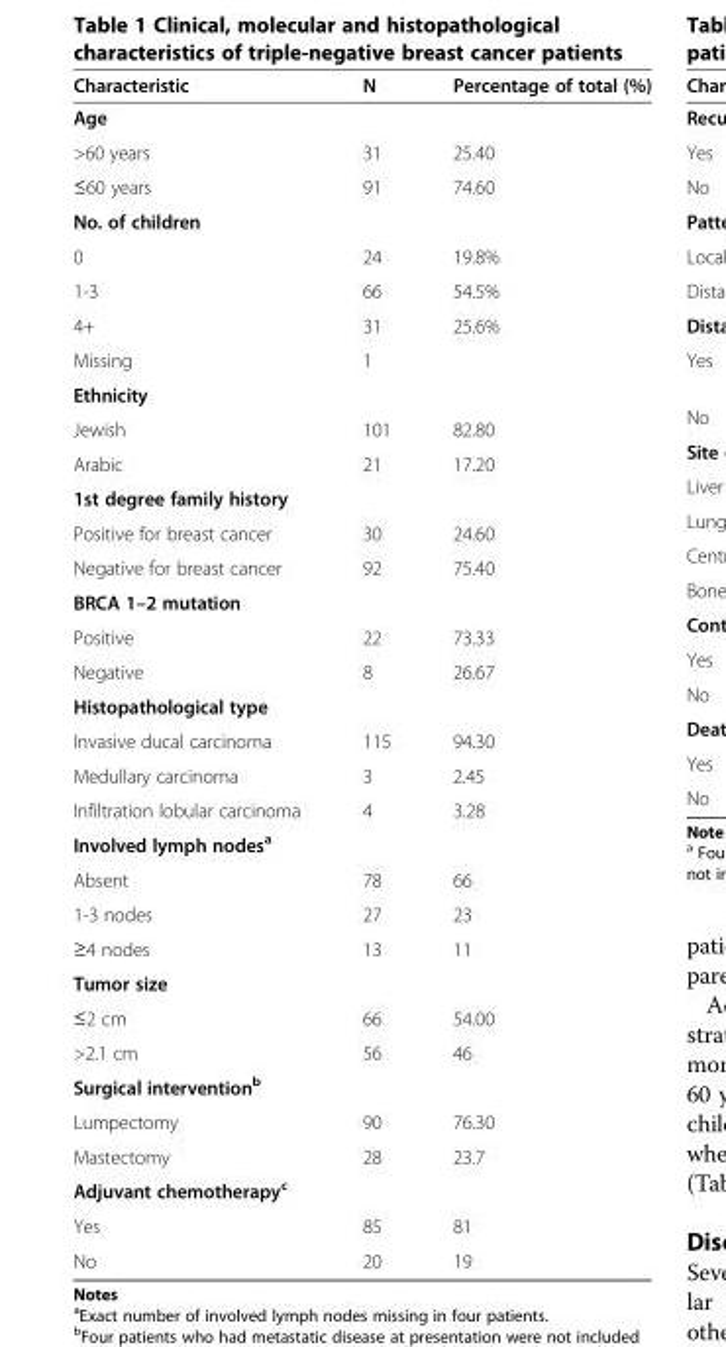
<table><thead><tr><td>Characteristic</td><td>N</td><td>Percentage of total (%)</td></tr></thead><tbody><tr><td colspan="3">Age</td></tr><tr><td>&gt;60 years</td><td>31</td><td>25.40</td></tr><tr><td>≤60 years</td><td>91</td><td>74.60</td></tr><tr><td colspan="3">No. of children</td></tr><tr><td>0</td><td>24</td><td>19.8%</td></tr><tr><td>1-3</td><td>66</td><td>54.5%</td></tr><tr><td>4+</td><td>31</td><td>25.6%</td></tr><tr><td>Missing</td><td>1</td><td></td></tr><tr><td colspan="3">Ethnicity</td></tr><tr><td>Jewish</td><td>101</td><td>82.80</td></tr><tr><td>Arabic</td><td>21</td><td>17.20</td></tr><tr><td colspan="3">1st degree family history</td></tr><tr><td>Positive for breast cancer</td><td>30</td><td>24.60</td></tr><tr><td>Negative for breast cancer</td><td>92</td><td>75.40</td></tr><tr><td colspan="3">BRCA 1–2 mutation</td></tr><tr><td>Positive</td><td>22</td><td>73.33</td></tr><tr><td>Negative</td><td>8</td><td>26.67</td></tr><tr><td colspan="3">Histopathological type</td></tr><tr><td>Invasive ducal carcinoma</td><td>115</td><td>94.30</td></tr><tr><td>Medullary carcinoma</td><td>3</td><td>2.45</td></tr><tr><td>Infiltration lobular carcinoma</td><td>4</td><td>3.28</td></tr><tr><td colspan="3">Involved lymph nodes<sup>a</sup></td></tr><tr><td>Absent</td><td>78</td><td>66</td></tr><tr><td>1-3 nodes</td><td>27</td><td>23</td></tr><tr><td>≥4 nodes</td><td>13</td><td>11</td></tr><tr><td colspan="3">Tumor size</td></tr><tr><td>≤2 cm</td><td>66</td><td>54.00</td></tr><tr><td>&gt;2.1 cm</td><td>56</td><td>46</td></tr><tr><td colspan="3">Surgical intervention<sup>b</sup></td></tr><tr><td>Lumpectomy</td><td>90</td><td>76.30</td></tr><tr><td>Mastectomy</td><td>28</td><td>23.7</td></tr><tr><td colspan="3">Adjuvant chemotherapy<sup>c</sup></td></tr><tr><td>Yes</td><td>85</td><td>81</td></tr><tr><td>No</td><td>20</td><td>19</td></tr></tbody></table>